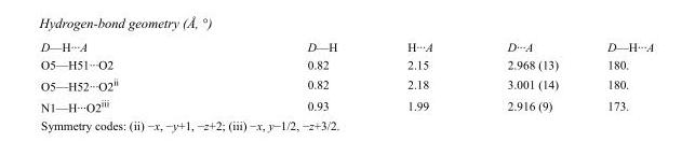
<table><tbody><tr><td>D—H···A</td><td>D—H</td><td>H···A</td><td>D···A</td><td>D—H···A</td></tr><tr><td>O5—H51···O2</td><td>0.82</td><td>2.15</td><td>2.968 (13)</td><td>180.</td></tr><tr><td>O5—H52···O2<sup>ii</sup></td><td>0.82</td><td>2.18</td><td>3.001 (14)</td><td>180.</td></tr><tr><td>N1—H···O2<sup>iii</sup></td><td>0.93</td><td>1.99</td><td>2.916 (9)</td><td>173.</td></tr></tbody></table>